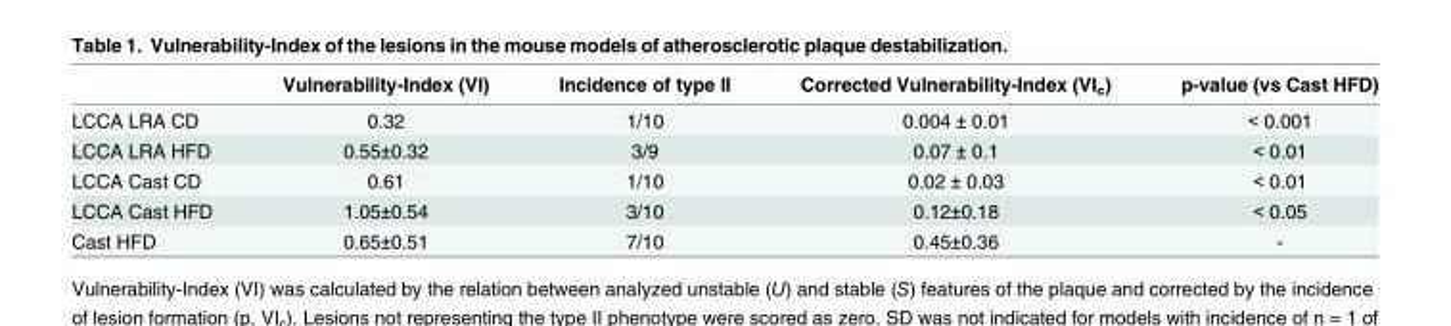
<table><thead><tr><td></td><td>Vulnerability-Index (VI)</td><td>Incidence of type II</td><td>Corrected Vulnerability-Index (VI<sub>c</sub>)</td><td>p-value (vs Cast HFD)</td></tr></thead><tbody><tr><td>LCCA LRA CD</td><td>0.32</td><td>1/10</td><td>0.004 ± 0.01</td><td>&lt; 0.001</td></tr><tr><td>LCCA LRA HFD</td><td>0.55±0.32</td><td>3/9</td><td>0.07 ± 0.1</td><td>&lt; 0.01</td></tr><tr><td>LCCA Cast CD</td><td>0.61</td><td>1/10</td><td>0.02 ± 0.03</td><td>&lt; 0.01</td></tr><tr><td>LCCA Cast HFD</td><td>1.05±0.54</td><td>3/10</td><td>0.12±0.18</td><td>&lt; 0.05</td></tr><tr><td>Cast HFD</td><td>0.65±0.51</td><td>7/10</td><td>0.45±0.36</td><td>-</td></tr></tbody></table>